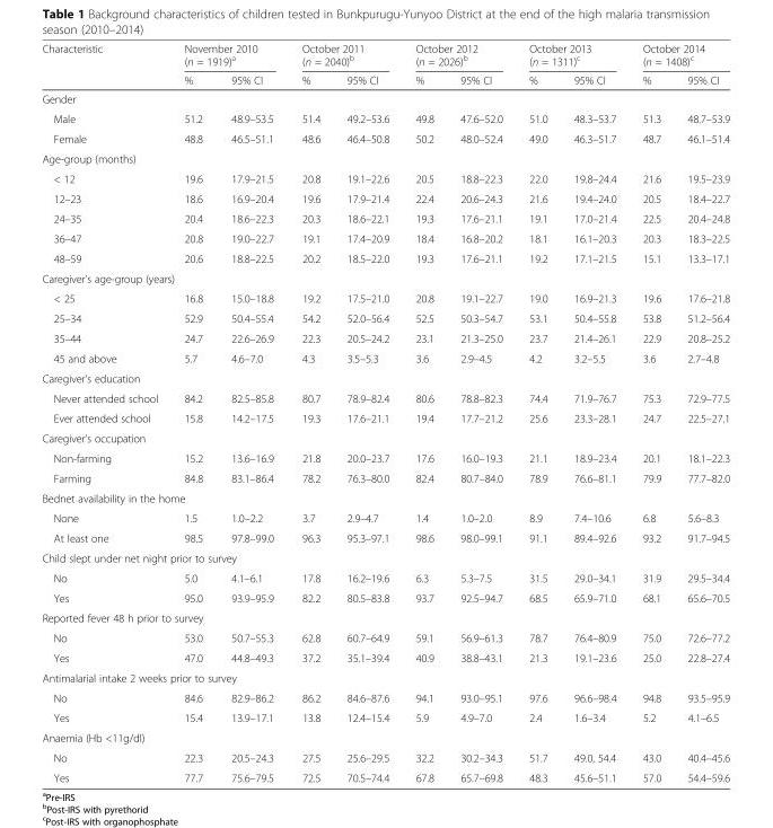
<table><thead><tr><td rowspan="2">Characteristic</td><td colspan="2">November 2010 (n = 1919)<sup>a</sup></td><td colspan="2">October 2011 (n = 2040)<sup>b</sup></td><td colspan="2">October 2012 (n = 2026)<sup>b</sup></td><td colspan="2">October 2013 (n = 1311)<sup>c</sup></td><td colspan="2">October 2014 (n = 1408)<sup>c</sup></td></tr><tr><td>%</td><td>95% CI</td><td>%</td><td>95% CI</td><td>%</td><td>95% CI</td><td>%</td><td>95% CI</td><td>%</td><td>95% CI</td></tr></thead><tbody><tr><td colspan="11">Gender</td></tr><tr><td>Male</td><td>51.2</td><td>48.9–53.5</td><td>51.4</td><td>49.2–53.6</td><td>49.8</td><td>47.6–52.0</td><td>51.0</td><td>48.3–53.7</td><td>51.3</td><td>48.7–53.9</td></tr><tr><td>Female</td><td>48.8</td><td>46.5–51.1</td><td>48.6</td><td>46.4–50.8</td><td>50.2</td><td>48.0–52.4</td><td>49.0</td><td>46.3–51.7</td><td>48.7</td><td>46.1–51.4</td></tr><tr><td colspan="11">Age-group (months)</td></tr><tr><td>&lt; 12</td><td>19.6</td><td>17.9–21.5</td><td>20.8</td><td>19.1–22.6</td><td>20.5</td><td>18.8–22.3</td><td>22.0</td><td>19.8–24.4</td><td>21.6</td><td>19.5–23.9</td></tr><tr><td>12–23</td><td>18.6</td><td>16.9–20.4</td><td>19.6</td><td>17.9–21.4</td><td>22.4</td><td>20.6–24.3</td><td>21.6</td><td>19.4–24.0</td><td>20.5</td><td>18.4–22.7</td></tr><tr><td>24–35</td><td>20.4</td><td>18.6–22.3</td><td>20.3</td><td>18.6–22.1</td><td>19.3</td><td>17.6–21.1</td><td>19.1</td><td>17.0–21.4</td><td>22.5</td><td>20.4–24.8</td></tr><tr><td>36–47</td><td>20.8</td><td>19.0–22.7</td><td>19.1</td><td>17.4–20.9</td><td>18.4</td><td>16.8–20.2</td><td>18.1</td><td>16.1–20.3</td><td>20.3</td><td>18.3–22.5</td></tr><tr><td>48–59</td><td>20.6</td><td>18.8–22.5</td><td>20.2</td><td>18.5–22.0</td><td>19.3</td><td>17.6–21.1</td><td>19.2</td><td>17.1–21.5</td><td>15.1</td><td>13.3–17.1</td></tr><tr><td colspan="11">Caregiver’s age-group (years)</td></tr><tr><td>&lt; 25</td><td>16.8</td><td>15.0–18.8</td><td>19.2</td><td>17.5–21.0</td><td>20.8</td><td>19.1–22.7</td><td>19.0</td><td>16.9–21.3</td><td>19.6</td><td>17.6–21.8</td></tr><tr><td>25–34</td><td>52.9</td><td>50.4–55.4</td><td>54.2</td><td>52.0–56.4</td><td>52.5</td><td>50.3–54.7</td><td>53.1</td><td>50.4–55.8</td><td>53.8</td><td>51.2–56.4</td></tr><tr><td>35–44</td><td>24.7</td><td>22.6–26.9</td><td>22.3</td><td>20.5–24.2</td><td>23.1</td><td>21.3–25.0</td><td>23.7</td><td>21.4–26.1</td><td>22.9</td><td>20.8–25.2</td></tr><tr><td>45 and above</td><td>5.7</td><td>4.6–7.0</td><td>4.3</td><td>3.5–5.3</td><td>3.6</td><td>2.9–4.5</td><td>4.2</td><td>3.2–5.5</td><td>3.6</td><td>2.7–4.8</td></tr><tr><td colspan="11">Caregiver’s education</td></tr><tr><td>Never attended school</td><td>84.2</td><td>82.5–85.8</td><td>80.7</td><td>78.9–82.4</td><td>80.6</td><td>78.8–82.3</td><td>74.4</td><td>71.9–76.7</td><td>75.3</td><td>72.9–77.5</td></tr><tr><td>Ever attended school</td><td>15.8</td><td>14.2–17.5</td><td>19.3</td><td>17.6–21.1</td><td>19.4</td><td>17.7–21.2</td><td>25.6</td><td>23.3–28.1</td><td>24.7</td><td>22.5–27.1</td></tr><tr><td colspan="11">Caregiver’s occupation</td></tr><tr><td>Non-farming</td><td>15.2</td><td>13.6–16.9</td><td>21.8</td><td>20.0–23.7</td><td>17.6</td><td>16.0–19.3</td><td>21.1</td><td>18.9–23.4</td><td>20.1</td><td>18.1–22.3</td></tr><tr><td>Farming</td><td>84.8</td><td>83.1–86.4</td><td>78.2</td><td>76.3–80.0</td><td>82.4</td><td>80.7–84.0</td><td>78.9</td><td>76.6–81.1</td><td>79.9</td><td>77.7–82.0</td></tr><tr><td colspan="11">Bednet availability in the home</td></tr><tr><td>None</td><td>1.5</td><td>1.0–2.2</td><td>3.7</td><td>2.9–4.7</td><td>1.4</td><td>1.0–2.0</td><td>8.9</td><td>7.4–10.6</td><td>6.8</td><td>5.6–8.3</td></tr><tr><td>At least one</td><td>98.5</td><td>97.8–99.0</td><td>96.3</td><td>95.3–97.1</td><td>98.6</td><td>98.0–99.1</td><td>91.1</td><td>89.4–92.6</td><td>93.2</td><td>91.7–94.5</td></tr><tr><td colspan="11">Child slept under net night prior to survey</td></tr><tr><td>No</td><td>5.0</td><td>4.1–6.1</td><td>17.8</td><td>16.2–19.6</td><td>6.3</td><td>5.3–7.5</td><td>31.5</td><td>29.0–34.1</td><td>31.9</td><td>29.5–34.4</td></tr><tr><td>Yes</td><td>95.0</td><td>93.9–95.9</td><td>82.2</td><td>80.5–83.8</td><td>93.7</td><td>92.5–94.7</td><td>68.5</td><td>65.9–71.0</td><td>68.1</td><td>65.6–70.5</td></tr><tr><td colspan="11">Reported fever 48 h prior to survey</td></tr><tr><td>No</td><td>53.0</td><td>50.7–55.3</td><td>62.8</td><td>60.7–64.9</td><td>59.1</td><td>56.9–61.3</td><td>78.7</td><td>76.4–80.9</td><td>75.0</td><td>72.6–77.2</td></tr><tr><td>Yes</td><td>47.0</td><td>44.8–49.3</td><td>37.2</td><td>35.1–39.4</td><td>40.9</td><td>38.8–43.1</td><td>21.3</td><td>19.1–23.6</td><td>25.0</td><td>22.8–27.4</td></tr><tr><td colspan="11">Antimalarial intake 2 weeks prior to survey</td></tr><tr><td>No</td><td>84.6</td><td>82.9–86.2</td><td>86.2</td><td>84.6–87.6</td><td>94.1</td><td>93.0–95.1</td><td>97.6</td><td>96.6–98.4</td><td>94.8</td><td>93.5–95.9</td></tr><tr><td>Yes</td><td>15.4</td><td>13.9–17.1</td><td>13.8</td><td>12.4–15.4</td><td>5.9</td><td>4.9–7.0</td><td>2.4</td><td>1.6–3.4</td><td>5.2</td><td>4.1–6.5</td></tr><tr><td colspan="11">Anaemia (Hb &lt;11g/dl)</td></tr><tr><td>No</td><td>22.3</td><td>20.5–24.3</td><td>27.5</td><td>25.6–29.5</td><td>32.2</td><td>30.2–34.3</td><td>51.7</td><td>49.0, 54.4</td><td>43.0</td><td>40.4–45.6</td></tr><tr><td>Yes</td><td>77.7</td><td>75.6–79.5</td><td>72.5</td><td>70.5–74.4</td><td>67.8</td><td>65.7–69.8</td><td>48.3</td><td>45.6–51.1</td><td>57.0</td><td>54.4–59.6</td></tr></tbody></table>